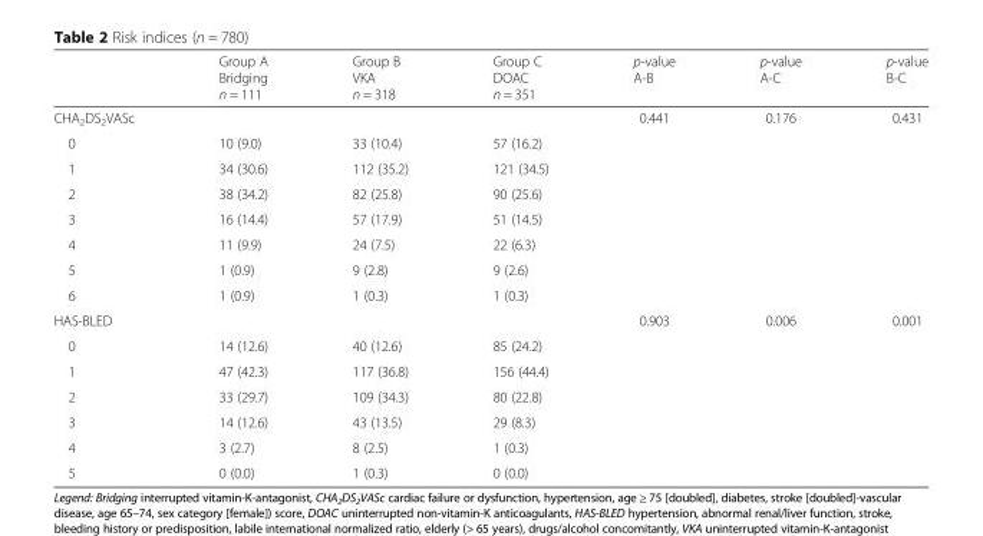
<table><thead><tr><td></td><td>Group A Bridging n = 111</td><td>Group B VKA n = 318</td><td>Group C DOAC n = 351</td><td>p-value A-B</td><td>p-value A-C</td><td>p-value B-C</td></tr></thead><tbody><tr><td>CHA<sub>2</sub>DS<sub>2</sub>VASc</td><td></td><td></td><td></td><td>0.441</td><td>0.176</td><td>0.431</td></tr><tr><td>0</td><td>10 (9.0)</td><td>33 (10.4)</td><td>57 (16.2)</td><td></td><td></td><td></td></tr><tr><td>1</td><td>34 (30.6)</td><td>112 (35.2)</td><td>121 (34.5)</td><td></td><td></td><td></td></tr><tr><td>2</td><td>38 (34.2)</td><td>82 (25.8)</td><td>90 (25.6)</td><td></td><td></td><td></td></tr><tr><td>3</td><td>16 (14.4)</td><td>57 (17.9)</td><td>51 (14.5)</td><td></td><td></td><td></td></tr><tr><td>4</td><td>11 (9.9)</td><td>24 (7.5)</td><td>22 (6.3)</td><td></td><td></td><td></td></tr><tr><td>5</td><td>1 (0.9)</td><td>9 (2.8)</td><td>9 (2.6)</td><td></td><td></td><td></td></tr><tr><td>6</td><td>1 (0.9)</td><td>1 (0.3)</td><td>1 (0.3)</td><td></td><td></td><td></td></tr><tr><td>HAS-BLED</td><td></td><td></td><td></td><td>0.903</td><td>0.006</td><td>0.001</td></tr><tr><td>0</td><td>14 (12.6)</td><td>40 (12.6)</td><td>85 (24.2)</td><td></td><td></td><td></td></tr><tr><td>1</td><td>47 (42.3)</td><td>117 (36.8)</td><td>156 (44.4)</td><td></td><td></td><td></td></tr><tr><td>2</td><td>33 (29.7)</td><td>109 (34.3)</td><td>80 (22.8)</td><td></td><td></td><td></td></tr><tr><td>3</td><td>14 (12.6)</td><td>43 (13.5)</td><td>29 (8.3)</td><td></td><td></td><td></td></tr><tr><td>4</td><td>3 (2.7)</td><td>8 (2.5)</td><td>1 (0.3)</td><td></td><td></td><td></td></tr><tr><td>5</td><td>0 (0.0)</td><td>1 (0.3)</td><td>0 (0.0)</td><td></td><td></td><td></td></tr></tbody></table>